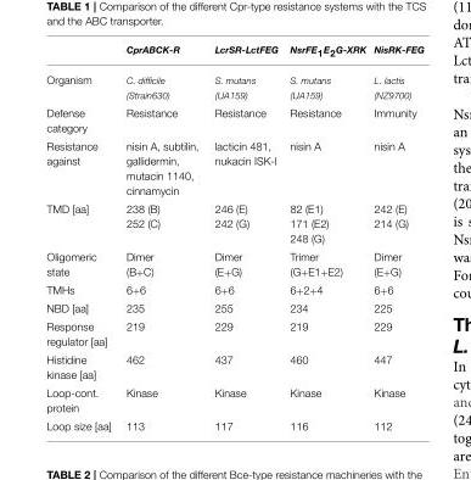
<table><thead><tr><td></td><td>CprABCK-R</td><td>LcrSR-LctFEG</td><td>NsrFE<sub>1</sub>E<sub>2</sub>G-XRK</td><td>NisRK-FEG</td></tr></thead><tbody><tr><td>Organism</td><td>C. difficile (Strain630)</td><td>S. mutans (UA159)</td><td>S. mutans (UA159)</td><td>L. lactis (NZ9700)</td></tr><tr><td>Defense category</td><td>Resistance</td><td>Resistance</td><td>Resistance</td><td>Immunity</td></tr><tr><td>Resistance against</td><td>nisin A, subtilin, gallidermin, mutacin 1140, cinnamycin</td><td>lacticin 481, nukacin ISK-I</td><td>nisin A</td><td>nisin A</td></tr><tr><td>TMD [aa]</td><td>238 (B) 252 (C)</td><td>246 (E) 242 (G)</td><td>82 (E1) 171 (E2) 248 (G)</td><td>242 (E) 214 (G)</td></tr><tr><td>Oligomeric state</td><td>Dimer (B+C)</td><td>Dimer (E+G)</td><td>Trimer (G+E1+E2)</td><td>Dimer (E+G)</td></tr><tr><td>TMHs</td><td>6+6</td><td>6+6</td><td>6+2+4</td><td>6+6</td></tr><tr><td>NBD [aa]</td><td>235</td><td>255</td><td>234</td><td>225</td></tr><tr><td>Response regulator [aa]</td><td>219</td><td>229</td><td>219</td><td>229</td></tr><tr><td>Histidine kinase [aa]</td><td>462</td><td>437</td><td>460</td><td>447</td></tr><tr><td>Loop-cont. protein</td><td>Kinase</td><td>Kinase</td><td>Kinase</td><td>Kinase</td></tr><tr><td>Loop size [aa]</td><td>113</td><td>117</td><td>116</td><td>112</td></tr></tbody></table>